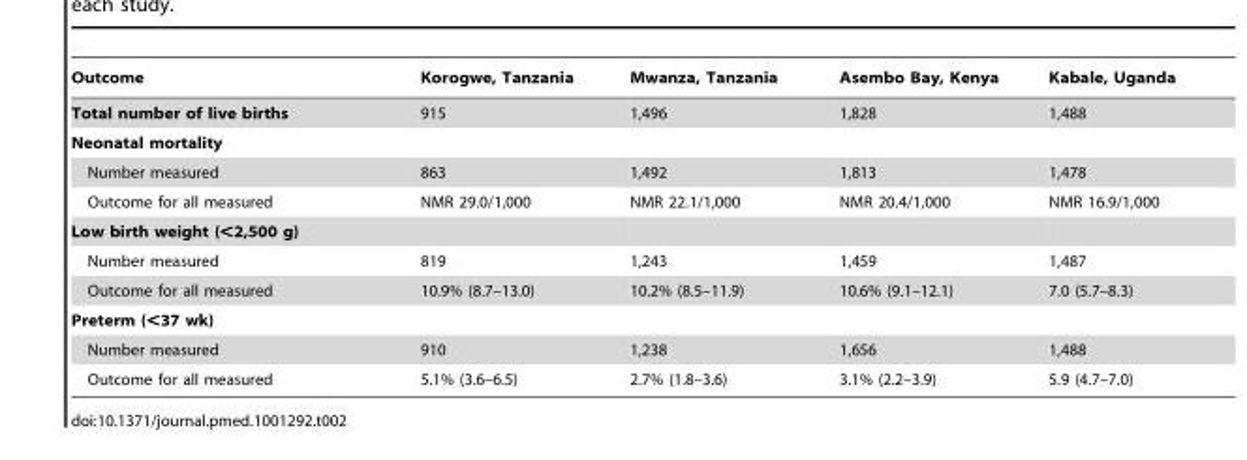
<table><thead><tr><td>Outcome</td><td>Korogwe, Tanzania</td><td>Mwanza, Tanzania</td><td>Asembo Bay, Kenya</td><td>Kabale, Uganda</td></tr></thead><tbody><tr><td>Total number of live births</td><td>915</td><td>1,496</td><td>1,828</td><td>1,488</td></tr><tr><td colspan="5">Neonatal mortality</td></tr><tr><td>Number measured</td><td>863</td><td>1,492</td><td>1,813</td><td>1,478</td></tr><tr><td>Outcome for all measured</td><td>NMR 29.0/1,000</td><td>NMR 22.1/1,000</td><td>NMR 20.4/1,000</td><td>NMR 16.9/1,000</td></tr><tr><td colspan="5">Low birth weight (&lt;2,500 g)</td></tr><tr><td>Number measured</td><td>819</td><td>1,243</td><td>1,459</td><td>1,487</td></tr><tr><td>Outcome for all measured</td><td>10.9% (8.7–13.0)</td><td>10.2% (8.5–11.9)</td><td>10.6% (9.1–12.1)</td><td>7.0 (5.7–8.3)</td></tr><tr><td colspan="5">Preterm (&lt;37 wk)</td></tr><tr><td>Number measured</td><td>910</td><td>1,238</td><td>1,656</td><td>1,488</td></tr><tr><td>Outcome for all measured</td><td>5.1% (3.6–6.5)</td><td>2.7% (1.8–3.6)</td><td>3.1% (2.2–3.9)</td><td>5.9 (4.7–7.0)</td></tr></tbody></table>